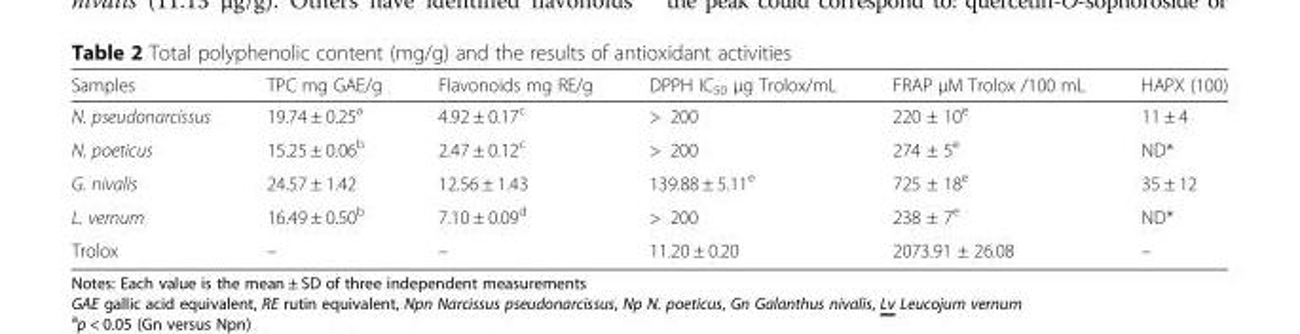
<table><thead><tr><td>Samples</td><td>TPC mg GAE/g</td><td>Flavonoids mg RE/g</td><td>DPPH IC<sub>50</sub> μg Trolox/mL</td><td>FRAP μM Trolox /100 mL</td><td>HAPX (100)</td></tr></thead><tbody><tr><td>N. pseudonarcissus</td><td>19.74 ± 0.25<sup>a</sup></td><td>4.92 ± 0.17<sup>c</sup></td><td>&gt; 200</td><td>220 ± 10<sup>e</sup></td><td>11 ± 4</td></tr><tr><td>N. poeticus</td><td>15.25 ± 0.06<sup>b</sup></td><td>2.47 ± 0.12<sup>c</sup></td><td>&gt; 200</td><td>274 ± 5<sup>e</sup></td><td>ND*</td></tr><tr><td>G. nivalis</td><td>24.57 ± 1.42</td><td>12.56 ± 1.43</td><td>139.88 ± 5.11<sup>e</sup></td><td>725 ± 18<sup>e</sup></td><td>35 ± 12</td></tr><tr><td>L. vernum</td><td>16.49 ± 0.50<sup>b</sup></td><td>7.10 ± 0.09<sup>d</sup></td><td>&gt; 200</td><td>238 ± 7<sup>e</sup></td><td>ND*</td></tr><tr><td>Trolox</td><td>–</td><td>–</td><td>11.20 ± 0.20</td><td>2073.91 ± 26.08</td><td>–</td></tr></tbody></table>